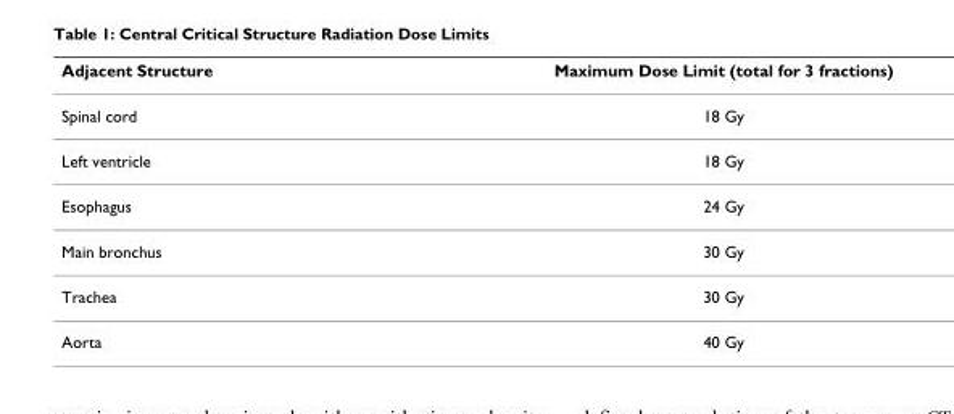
<table><thead><tr><td>Adjacent Structure</td><td>Maximum Dose Limit (total for 3 fractions)</td></tr></thead><tbody><tr><td>Spinal cord</td><td>18 Gy</td></tr><tr><td>Left ventricle</td><td>18 Gy</td></tr><tr><td>Esophagus</td><td>24 Gy</td></tr><tr><td>Main bronchus</td><td>30 Gy</td></tr><tr><td>Trachea</td><td>30 Gy</td></tr><tr><td>Aorta</td><td>40 Gy</td></tr></tbody></table>